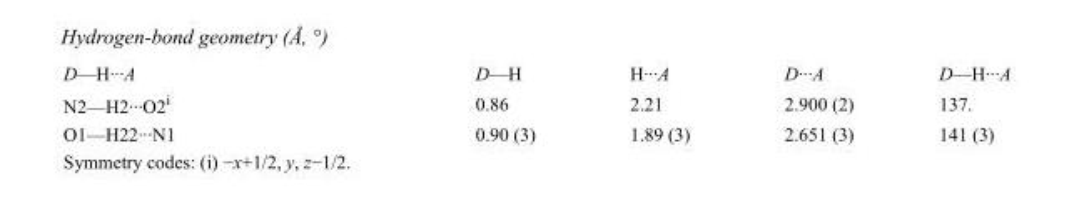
<table><tbody><tr><td>D—H···A</td><td>D—H</td><td>H···A</td><td>D···A</td><td>D—H···A</td></tr><tr><td>N2—H2···O2<sup>i</sup></td><td>0.86</td><td>2.21</td><td>2.900 (2)</td><td>137.</td></tr><tr><td>O1—H22···N1</td><td>0.90 (3)</td><td>1.89 (3)</td><td>2.651 (3)</td><td>141 (3)</td></tr></tbody></table>